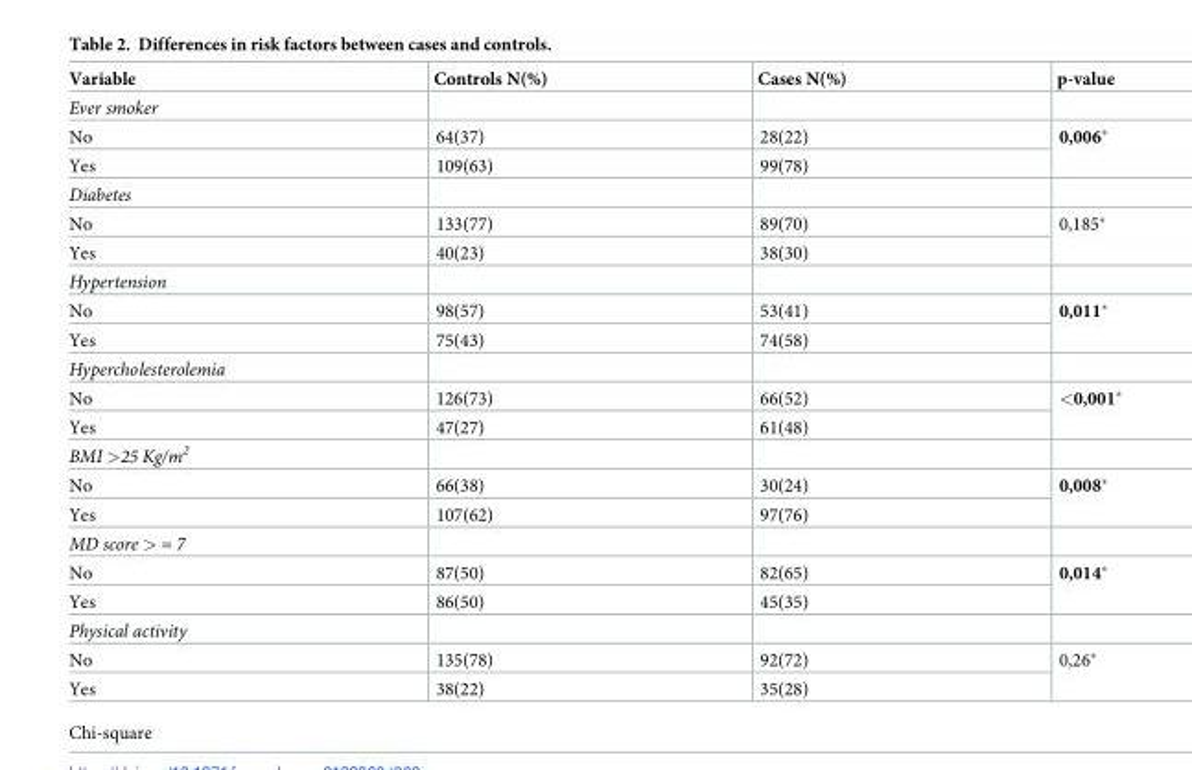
<table><thead><tr><td>Variable</td><td>Controls N(%)</td><td>Cases N(%)</td><td>p-value</td></tr></thead><tbody><tr><td colspan="4">Ever smoker</td></tr><tr><td>No</td><td>64(37)</td><td>28(22)</td><td rowspan="2">0,006*</td></tr><tr><td>Yes</td><td>109(63)</td><td>99(78)</td></tr><tr><td colspan="4">Diabetes</td></tr><tr><td>No</td><td>133(77)</td><td>89(70)</td><td rowspan="2">0,185*</td></tr><tr><td>Yes</td><td>40(23)</td><td>38(30)</td></tr><tr><td colspan="4">Hypertension</td></tr><tr><td>No</td><td>98(57)</td><td>53(41)</td><td rowspan="2">0,011*</td></tr><tr><td>Yes</td><td>75(43)</td><td>74(58)</td></tr><tr><td colspan="4">Hypercholesterolemia</td></tr><tr><td>No</td><td>126(73)</td><td>66(52)</td><td rowspan="2">&lt;0,001*</td></tr><tr><td>Yes</td><td>47(27)</td><td>61(48)</td></tr><tr><td colspan="4">BMI &gt;25 Kg/m<sup>2</sup></td></tr><tr><td>No</td><td>66(38)</td><td>30(24)</td><td rowspan="2">0,008*</td></tr><tr><td>Yes</td><td>107(62)</td><td>97(76)</td></tr><tr><td colspan="4">MD score &gt; = 7</td></tr><tr><td>No</td><td>87(50)</td><td>82(65)</td><td rowspan="2">0,014*</td></tr><tr><td>Yes</td><td>86(50)</td><td>45(35)</td></tr><tr><td colspan="4">Physical activity</td></tr><tr><td>No</td><td>135(78)</td><td>92(72)</td><td rowspan="2">0,26*</td></tr><tr><td>Yes</td><td>38(22)</td><td>35(28)</td></tr></tbody></table>